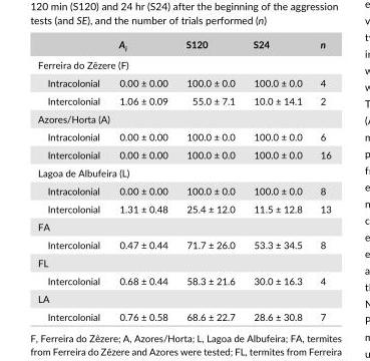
<table><thead><tr><td></td><td>A<sub>i</sub></td><td>S120</td><td>S24</td><td>n</td></tr></thead><tbody><tr><td colspan="5">Ferreira do Zêzere (F)</td></tr><tr><td>Intracolonial</td><td>0.00 ± 0.00</td><td>100.0 ± 0.0</td><td>100.0 ± 0.0</td><td>4</td></tr><tr><td>Intercolonial</td><td>1.06 ± 0.09</td><td>55.0 ± 7.1</td><td>10.0 ± 14.1</td><td>2</td></tr><tr><td colspan="5">Azores/Horta (A)</td></tr><tr><td>Intracolonial</td><td>0.00 ± 0.00</td><td>100.0 ± 0.0</td><td>100.0 ± 0.0</td><td>6</td></tr><tr><td>Intercolonial</td><td>0.00 ± 0.00</td><td>100.0 ± 0.0</td><td>100.0 ± 0.0</td><td>16</td></tr><tr><td colspan="5">Lagoa de Albufeira (L)</td></tr><tr><td>Intracolonial</td><td>0.00 ± 0.00</td><td>100.0 ± 0.0</td><td>100.0 ± 0.0</td><td>8</td></tr><tr><td>Intercolonial</td><td>1.31 ± 0.48</td><td>25.4 ± 12.0</td><td>11.5 ± 12.8</td><td>13</td></tr><tr><td colspan="5">FA</td></tr><tr><td>Intercolonial</td><td>0.47 ± 0.44</td><td>71.7 ± 26.0</td><td>53.3 ± 34.5</td><td>8</td></tr><tr><td colspan="5">FL</td></tr><tr><td>Intercolonial</td><td>0.68 ± 0.44</td><td>58.3 ± 21.6</td><td>30.0 ± 16.3</td><td>4</td></tr><tr><td colspan="5">LA</td></tr><tr><td>Intercolonial</td><td>0.76 ± 0.58</td><td>68.6 ± 22.7</td><td>28.6 ± 30.8</td><td>7</td></tr></tbody></table>